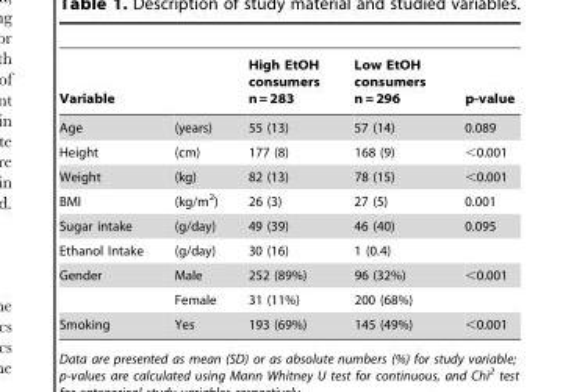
<table><thead><tr><td>Variable</td><td></td><td>High EtOH consumers n = 283</td><td>Low EtOH consumers n = 296</td><td>p-value</td></tr></thead><tbody><tr><td>Age</td><td>(years)</td><td>55 (13)</td><td>57 (14)</td><td>0.089</td></tr><tr><td>Height</td><td>(cm)</td><td>177 (8)</td><td>168 (9)</td><td>&lt;0.001</td></tr><tr><td>Weight</td><td>(kg)</td><td>82 (13)</td><td>78 (15)</td><td>&lt;0.001</td></tr><tr><td>BMI</td><td>(kg/m<sup>2</sup>)</td><td>26 (3)</td><td>27 (5)</td><td>0.001</td></tr><tr><td>Sugar intake</td><td>(g/day)</td><td>49 (39)</td><td>46 (40)</td><td>0.095</td></tr><tr><td>Ethanol Intake</td><td>(g/day)</td><td>30 (16)</td><td>1 (0.4)</td><td></td></tr><tr><td rowspan="2">Gender</td><td>Male</td><td>252 (89%)</td><td>96 (32%)</td><td>&lt;0.001</td></tr><tr><td>Female</td><td>31 (11%)</td><td>200 (68%)</td><td></td></tr><tr><td>Smoking</td><td>Yes</td><td>193 (69%)</td><td>145 (49%)</td><td>&lt;0.001</td></tr></tbody></table>